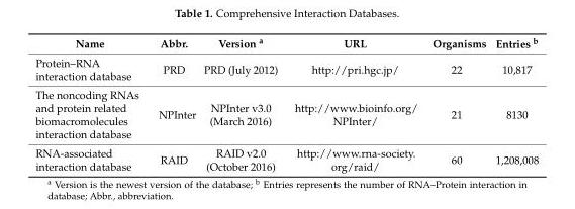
<table><thead><tr><td>Name</td><td>Abbr.</td><td>Version <sup>a</sup></td><td>URL</td><td>Organisms</td><td>Entries <sup>b</sup></td></tr></thead><tbody><tr><td>Protein–RNA interaction database</td><td>PRD</td><td>PRD (July 2012)</td><td>http://pri.hgc.jp/</td><td>22</td><td>10,817</td></tr><tr><td>The noncoding RNAs and protein related biomacromolecules interaction database</td><td>NPInter</td><td>NPInter v3.0 (March 2016)</td><td>http://www.bioinfo.org/ NPInter/</td><td>21</td><td>8130</td></tr><tr><td>RNA-associated interaction database</td><td>RAID</td><td>RAID v2.0 (October 2016)</td><td>http://www.rna-society. org/raid/</td><td>60</td><td>1,208,008</td></tr></tbody></table>